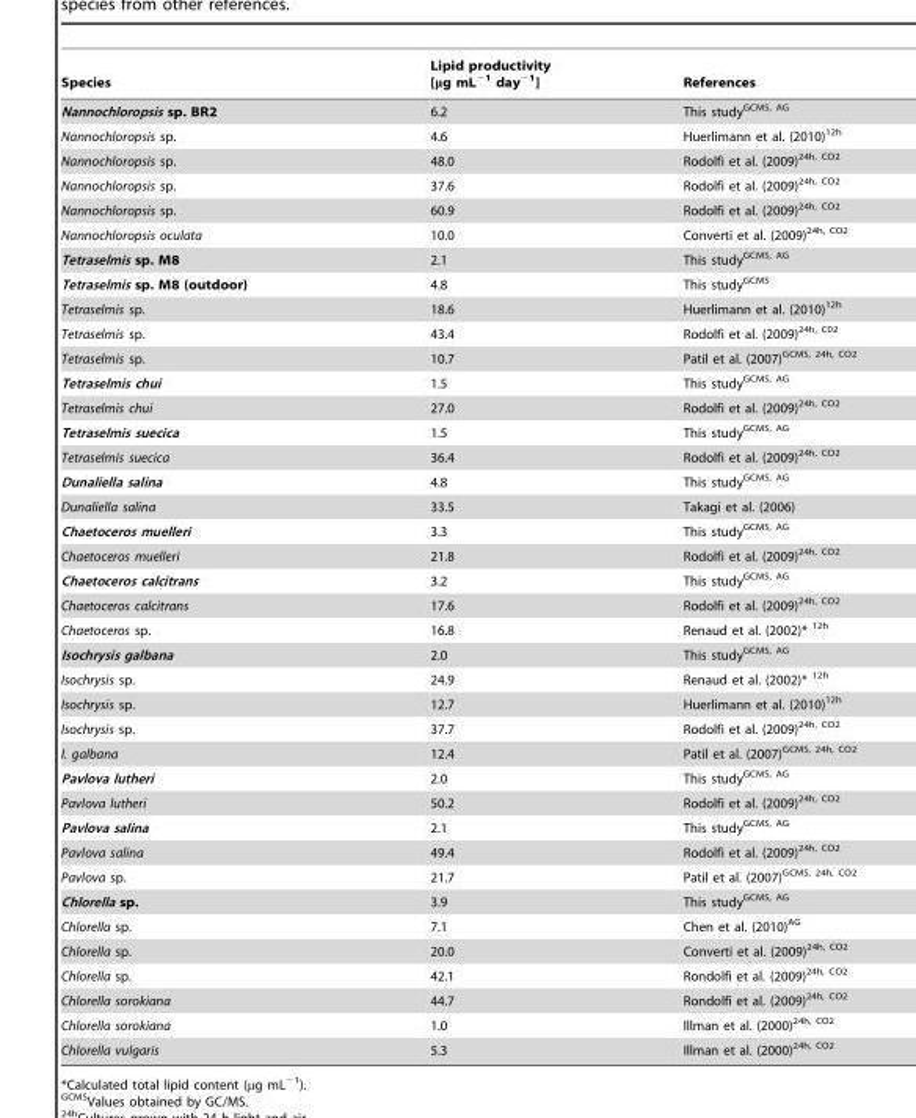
<table><thead><tr><td>Species</td><td>Lipid productivity [μg mL<sup>−1</sup> day<sup>−1</sup>]</td><td>References</td></tr></thead><tbody><tr><td>Nannochloropsis sp. BR2</td><td>6.2</td><td>This studyGCMS, AG</td></tr><tr><td>Nannochloropsis sp.</td><td>4.6</td><td>Huerlimann et al. (2010)12h</td></tr><tr><td>Nannochloropsis sp.</td><td>48.0</td><td>Rodolfi et al. (2009)24h, CO2</td></tr><tr><td>Nannochloropsis sp.</td><td>37.6</td><td>Rodolfi et al. (2009)24h, CO2</td></tr><tr><td>Nannochloropsis sp.</td><td>60.9</td><td>Rodolfi et al. (2009)24h, CO2</td></tr><tr><td>Nannochloropsis oculata</td><td>10.0</td><td>Converti et al. (2009)24h, CO2</td></tr><tr><td>Tetraselmis sp. M8</td><td>2.1</td><td>This studyGCMS, AG</td></tr><tr><td>Tetraselmis sp. M8 (outdoor)</td><td>4.8</td><td>This studyGCMS</td></tr><tr><td>Tetraselmis sp.</td><td>18.6</td><td>Huerlimann et al. (2010)12h</td></tr><tr><td>Tetraselmis sp.</td><td>43.4</td><td>Rodolfi et al. (2009)24h, C02</td></tr><tr><td>Tetraselmis sp.</td><td>10.7</td><td>Patil et al. (2007)GCMS, 24h, CO2</td></tr><tr><td>Tetraselmis chui</td><td>1.5</td><td>This studyGCMS, AG</td></tr><tr><td>Tetraselmis chui</td><td>27.0</td><td>Rodolfi et al. (2009)24h, CO2</td></tr><tr><td>Tetraselmis suecica</td><td>1.5</td><td>This studyGCMS, AG</td></tr><tr><td>Tetraselmis suecica</td><td>36.4</td><td>Rodolfi et al. (2009)24h, CO2</td></tr><tr><td>Dunaliella salina</td><td>4.8</td><td>This studyGCMS, AG</td></tr><tr><td>Dunaliella salina</td><td>33.5</td><td>Takagi et al. (2006)</td></tr><tr><td>Chaetoceros muelleri</td><td>3.3</td><td>This studyGCMS, AG</td></tr><tr><td>Chaetoceros muelleri</td><td>21.8</td><td>Rodolfi et al. (2009)24h, CO2</td></tr><tr><td>Chaetoceros calcitrans</td><td>3.2</td><td>This studyGCMS, AG</td></tr><tr><td>Chaetoceros calcitrans</td><td>17.6</td><td>Rodolfi et al. (2009)24h, CO2</td></tr><tr><td>Chaetoceros sp.</td><td>16.8</td><td>Renaud et al. (2002)* 12h</td></tr><tr><td>Isochrysis galbana</td><td>2.0</td><td>This studyGCMS, AG</td></tr><tr><td>Isochrysis sp.</td><td>24.9</td><td>Renaud et al. (2002)* 12h</td></tr><tr><td>Isochrysis sp.</td><td>12.7</td><td>Huerlimann et al. (2010)12h</td></tr><tr><td>Isochrysis sp.</td><td>37.7</td><td>Rodolfi et al. (2009)24h, CO2</td></tr><tr><td>I. galbana</td><td>12.4</td><td>Patil et al. (2007)GCMS, 24h, CO2</td></tr><tr><td>Pavlova lutheri</td><td>2.0</td><td>This studyGCMS, AG</td></tr><tr><td>Pavlova lutheri</td><td>50.2</td><td>Rodolfi et al. (2009)24h, CO2</td></tr><tr><td>Pavlova salina</td><td>2.1</td><td>This studyGCMS, AG</td></tr><tr><td>Pavlova salina</td><td>49.4</td><td>Rodolfi et al. (2009)24h, CO2</td></tr><tr><td>Pavlova sp.</td><td>21.7</td><td>Patil et al. (2007)GCMS, 24h, CO2</td></tr><tr><td>Chlorella sp.</td><td>3.9</td><td>This studyGCMS, AG</td></tr><tr><td>Chlorella sp.</td><td>7.1</td><td>Chen et al. (2010)<sup>AG</sup></td></tr><tr><td>Chlorella sp.</td><td>20.0</td><td>Converti et al. (2009)24h, CO2</td></tr><tr><td>Chlorella sp.</td><td>42.1</td><td>Rondolfi et al. (2009)24h, CO2</td></tr><tr><td>Chlorella sorokiana</td><td>44.7</td><td>Rondolfi et al. (2009)24h, CO2</td></tr><tr><td>Chlorella sorokiana</td><td>1.0</td><td>Illman et al. (2000)24h, CO2</td></tr><tr><td>Chlorella vulgaris</td><td>5.3</td><td>Illman et al. (2000)24h, CO2</td></tr></tbody></table>